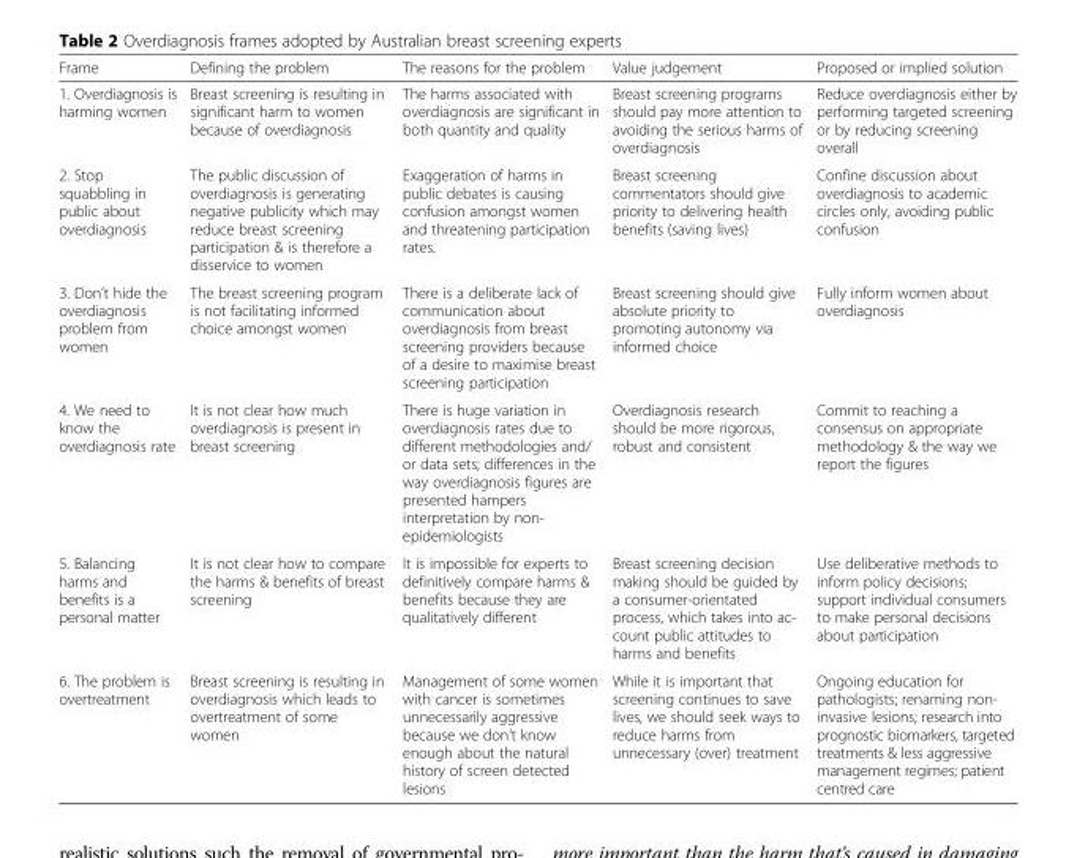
<table><thead><tr><td>Frame</td><td>Defining the problem</td><td>The reasons for the problem</td><td>Value judgement</td><td>Proposed or implied solution</td></tr></thead><tbody><tr><td>1. Overdiagnosis is harming women</td><td>Breast screening is resulting in significant harm to women because of overdiagnosis</td><td>The harms associated with overdiagnosis are significant in both quantity and quality</td><td>Breast screening programs should pay more attention to avoiding the serious harms of overdiagnosis</td><td>Reduce overdiagnosis either by performing targeted screening or by reducing screening overall</td></tr><tr><td>2. Stop squabbling in public about overdiagnosis</td><td>The public discussion of overdiagnosis is generating negative publicity which may reduce breast screening participation &amp; is therefore a disservice to women</td><td>Exaggeration of harms in public debates is causing confusion amongst women and threatening participation rates.</td><td>Breast screening commentators should give priority to delivering health benefits (saving lives)</td><td>Confine discussion about overdiagnosis to academic circles only, avoiding public confusion</td></tr><tr><td>3. Don’t hide the overdiagnosis problem from women</td><td>The breast screening program is not facilitating informed choice amongst women</td><td>There is a deliberate lack of communication about overdiagnosis from breast screening providers because of a desire to maximise breast screening participation</td><td>Breast screening should give absolute priority to promoting autonomy via informed choice</td><td>Fully inform women about overdiagnosis</td></tr><tr><td>4. We need to know the overdiagnosis rate</td><td>It is not clear how much overdiagnosis is present in breast screening</td><td>There is huge variation in overdiagnosis rates due to different methodologies and/ or data sets; differences in the way overdiagnosis figures are presented hampers interpretation by non- epidemiologists</td><td>Overdiagnosis research should be more rigorous, robust and consistent</td><td>Commit to reaching a consensus on appropriate methodology &amp; the way we report the figures</td></tr><tr><td>5. Balancing harms and benefits is a personal matter</td><td>It is not clear how to compare the harms &amp; benefits of breast screening</td><td>It is impossible for experts to definitively compare harms &amp; benefits because they are qualitatively different</td><td>Breast screening decision making should be guided by a consumer-orientated process, which takes into ac- count public attitudes to harms and benefits</td><td>Use deliberative methods to inform policy decisions; support individual consumers to make personal decisions about participation</td></tr><tr><td>6. The problem is overtreatment</td><td>Breast screening is resulting in overdiagnosis which leads to overtreatment of some women</td><td>Management of some women with cancer is sometimes unnecessarily aggressive because we don’t know enough about the natural history of screen detected lesions</td><td>While it is important that screening continues to save lives, we should seek ways to reduce harms from unnecessary (over) treatment</td><td>Ongoing education for pathologists; renaming non- invasive lesions; research into prognostic biomarkers, targeted treatments &amp; less aggressive management regimes; patient centred care</td></tr></tbody></table>